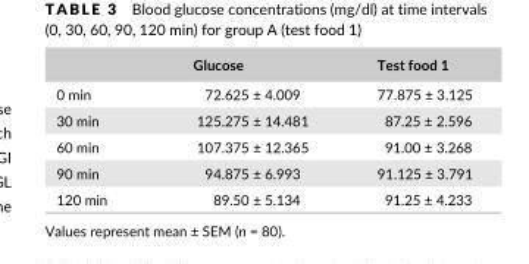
<table><thead><tr><td></td><td>Glucose</td><td>Test food 1</td></tr></thead><tbody><tr><td>0 min</td><td>72.625 ± 4.009</td><td>77.875 ± 3.125</td></tr><tr><td>30 min</td><td>125.275 ± 14.481</td><td>87.25 ± 2.596</td></tr><tr><td>60 min</td><td>107.375 ± 12.365</td><td>91.00 ± 3.268</td></tr><tr><td>90 min</td><td>94.875 ± 6.993</td><td>91.125 ± 3.791</td></tr><tr><td>120 min</td><td>89.50 ± 5.134</td><td>91.25 ± 4.233</td></tr></tbody></table>